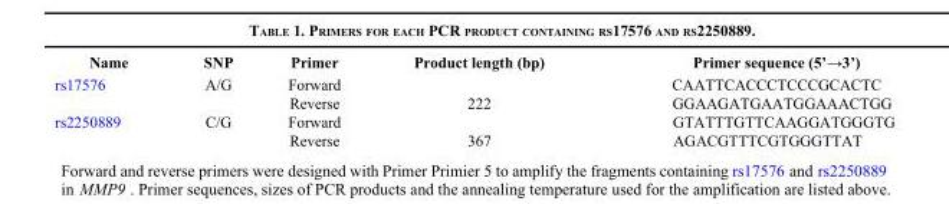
<table><thead><tr><td>Name</td><td>SNP</td><td>Primer</td><td>Product length (bp)</td><td>Primer sequence (5’→3’)</td></tr></thead><tbody><tr><td rowspan="2">rs17576</td><td>A/G</td><td>Forward</td><td></td><td>CAATTCACCCTCCCGCACTC</td></tr><tr><td></td><td>Reverse</td><td>222</td><td>GGAAGATGAATGGAAACTGG</td></tr><tr><td rowspan="2">rs2250889</td><td>C/G</td><td>Forward</td><td></td><td>GTATTTGTTCAAGGATGGGTG</td></tr><tr><td></td><td>Reverse</td><td>367</td><td>AGACGTTTCGTGGGTTAT</td></tr></tbody></table>